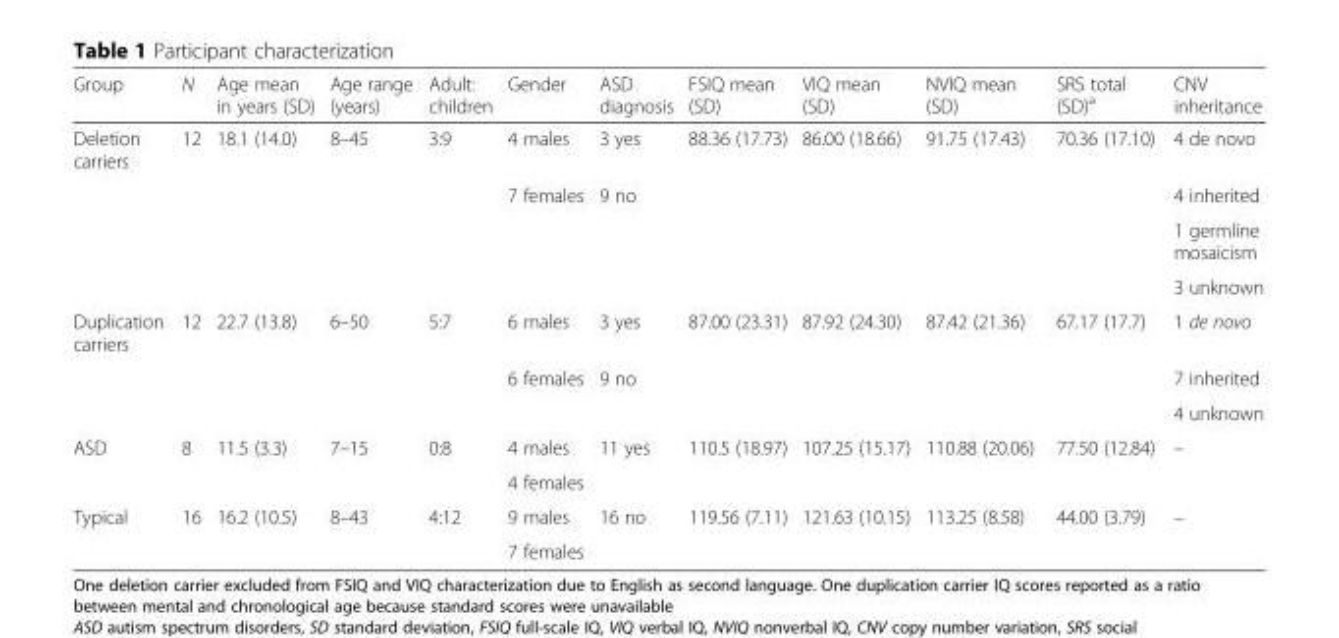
<table><thead><tr><td>Group</td><td>N</td><td>Age mean in years (SD)</td><td>Age range (years)</td><td>Adult: children</td><td>Gender</td><td>ASD diagnosis</td><td>FSIQ mean (SD)</td><td>VIQ mean (SD)</td><td>NVIQ mean (SD)</td><td>SRS total (SD)<sup>a</sup></td><td>CNV inheritance</td></tr></thead><tbody><tr><td rowspan="4">Deletion carriers</td><td>12</td><td>18.1 (14.0)</td><td>8–45</td><td>3:9</td><td>4 males</td><td>3 yes</td><td>88.36 (17.73)</td><td>86.00 (18.66)</td><td>91.75 (17.43)</td><td>70.36 (17.10)</td><td>4 de novo</td></tr><tr><td></td><td></td><td></td><td></td><td>7 females</td><td>9 no</td><td></td><td></td><td></td><td></td><td>4 inherited</td></tr><tr><td></td><td></td><td></td><td></td><td></td><td></td><td></td><td></td><td></td><td></td><td>1 germline mosaicism</td></tr><tr><td></td><td></td><td></td><td></td><td></td><td></td><td></td><td></td><td></td><td></td><td>3 unknown</td></tr><tr><td rowspan="3">Duplication carriers</td><td>12</td><td>22.7 (13.8)</td><td>6–50</td><td>5:7</td><td>6 males</td><td>3 yes</td><td>87.00 (23.31)</td><td>87.92 (24.30)</td><td>87.42 (21.36)</td><td>67.17 (17.7)</td><td>1 de novo</td></tr><tr><td></td><td></td><td></td><td></td><td>6 females</td><td>9 no</td><td></td><td></td><td></td><td></td><td>7 inherited</td></tr><tr><td></td><td></td><td></td><td></td><td></td><td></td><td></td><td></td><td></td><td></td><td>4 unknown</td></tr><tr><td rowspan="2">ASD</td><td>8</td><td>11.5 (3.3)</td><td>7–15</td><td>0:8</td><td>4 males</td><td>11 yes</td><td>110.5 (18.97)</td><td>107.25 (15.17)</td><td>110.88 (20.06)</td><td>77.50 (12.84)</td><td>–</td></tr><tr><td></td><td></td><td></td><td></td><td>4 females</td><td></td><td></td><td></td><td></td><td></td><td></td></tr><tr><td rowspan="2">Typical</td><td>16</td><td>16.2 (10.5)</td><td>8–43</td><td>4:12</td><td>9 males</td><td>16 no</td><td>119.56 (7.11)</td><td>121.63 (10.15)</td><td>113.25 (8.58)</td><td>44.00 (3.79)</td><td>–</td></tr><tr><td></td><td></td><td></td><td></td><td>7 females</td><td></td><td></td><td></td><td></td><td></td><td></td></tr></tbody></table>